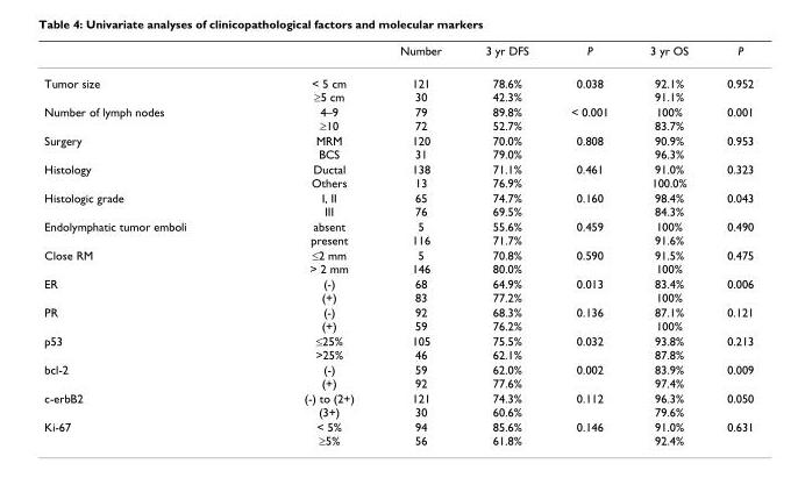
<table><thead><tr><td></td><td></td><td>Number</td><td>3 yr DFS</td><td>P</td><td>3 yr OS</td><td>P</td></tr></thead><tbody><tr><td>Tumor size</td><td>&lt; 5 cm ≥5 cm</td><td>121 30</td><td>78.6% 42.3%</td><td>0.038</td><td>92.1% 91.1%</td><td>0.952</td></tr><tr><td>Number of lymph nodes</td><td>4–9 ≥10</td><td>79 72</td><td>89.8% 52.7%</td><td>&lt; 0.001</td><td>100% 83.7%</td><td>0.001</td></tr><tr><td>Surgery</td><td>MRM BCS</td><td>120 31</td><td>70.0% 79.0%</td><td>0.808</td><td>90.9% 96.3%</td><td>0.953</td></tr><tr><td>Histology</td><td>Ductal Others</td><td>138 13</td><td>71.1% 76.9%</td><td>0.461</td><td>91.0% 100.0%</td><td>0.323</td></tr><tr><td>Histologic grade</td><td>I, II III</td><td>65 76</td><td>74.7% 69.5%</td><td>0.160</td><td>98.4% 84.3%</td><td>0.043</td></tr><tr><td>Endolymphatic tumor emboli</td><td>absent present</td><td>5 116</td><td>55.6% 71.7%</td><td>0.459</td><td>100% 91.6%</td><td>0.490</td></tr><tr><td>Close RM</td><td>≤2 mm &gt; 2 mm</td><td>5 146</td><td>70.8% 80.0%</td><td>0.590</td><td>91.5% 100%</td><td>0.475</td></tr><tr><td>ER</td><td>(-) (+)</td><td>68 83</td><td>64.9% 77.2%</td><td>0.013</td><td>83.4% 100%</td><td>0.006</td></tr><tr><td>PR</td><td>(-) (+)</td><td>92 59</td><td>68.3% 76.2%</td><td>0.136</td><td>87.1% 100%</td><td>0.121</td></tr><tr><td>p53</td><td>≤25% &gt;25%</td><td>105 46</td><td>75.5% 62.1%</td><td>0.032</td><td>93.8% 87.8%</td><td>0.213</td></tr><tr><td>bcl-2</td><td>(-) (+)</td><td>59 92</td><td>62.0% 77.6%</td><td>0.002</td><td>83.9% 97.4%</td><td>0.009</td></tr><tr><td>c-erbB2</td><td>(-) to (2+) (3+)</td><td>121 30</td><td>74.3% 60.6%</td><td>0.112</td><td>96.3% 79.6%</td><td>0.050</td></tr><tr><td>Ki-67</td><td>&lt; 5% ≥5%</td><td>94 56</td><td>85.6% 61.8%</td><td>0.146</td><td>91.0% 92.4%</td><td>0.631</td></tr></tbody></table>